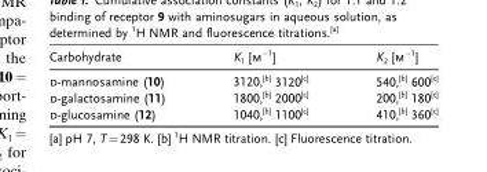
<table><thead><tr><td>Carbohydrate</td><td>K<sub>1</sub> [m<sup>−1</sup>]</td><td>K<sub>2</sub> [m<sup>−1</sup>]</td></tr></thead><tbody><tr><td>d-mannosamine (10)</td><td>3120,<sup>[b]</sup> 3120<sup>[c]</sup></td><td>540,<sup>[b]</sup> 600<sup>[c]</sup></td></tr><tr><td>d-galactosamine (11)</td><td>1800,<sup>[b]</sup> 2000<sup>[c]</sup></td><td>200,<sup>[b]</sup> 180<sup>[c]</sup></td></tr><tr><td>d-glucosamine (12)</td><td>1040,<sup>[b]</sup> 1100<sup>[c]</sup></td><td>410,<sup>[b]</sup> 360<sup>[c]</sup></td></tr></tbody></table>